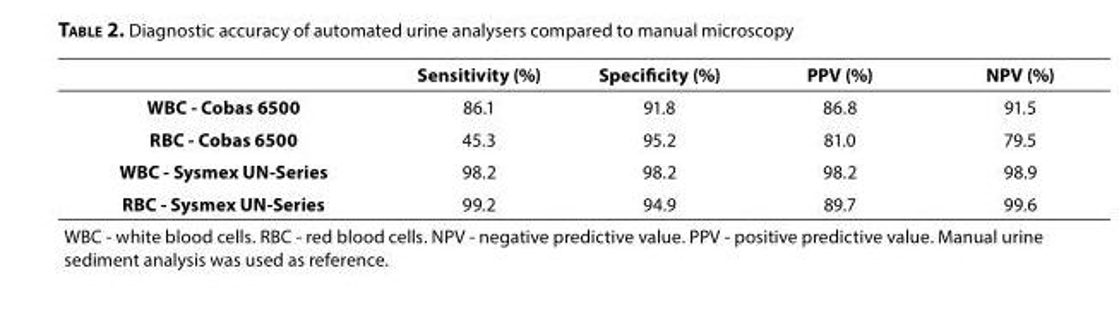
<table><thead><tr><td></td><td>Sensitivity (%)</td><td>Specificity (%)</td><td>PPV (%)</td><td>NPV (%)</td></tr></thead><tbody><tr><td>WBC - Cobas 6500</td><td>86.1</td><td>91.8</td><td>86.8</td><td>91.5</td></tr><tr><td>RBC - Cobas 6500</td><td>45.3</td><td>95.2</td><td>81.0</td><td>79.5</td></tr><tr><td>WBC - Sysmex UN-Series</td><td>98.2</td><td>98.2</td><td>98.2</td><td>98.9</td></tr><tr><td>RBC - Sysmex UN-Series</td><td>99.2</td><td>94.9</td><td>89.7</td><td>99.6</td></tr><tr><td colspan="5">WBC - white blood cells. RBC - red blood cells. NPV - negative predictive value. PPV - positive predictive value. Manual urine sediment analysis was used as reference.</td></tr></tbody></table>